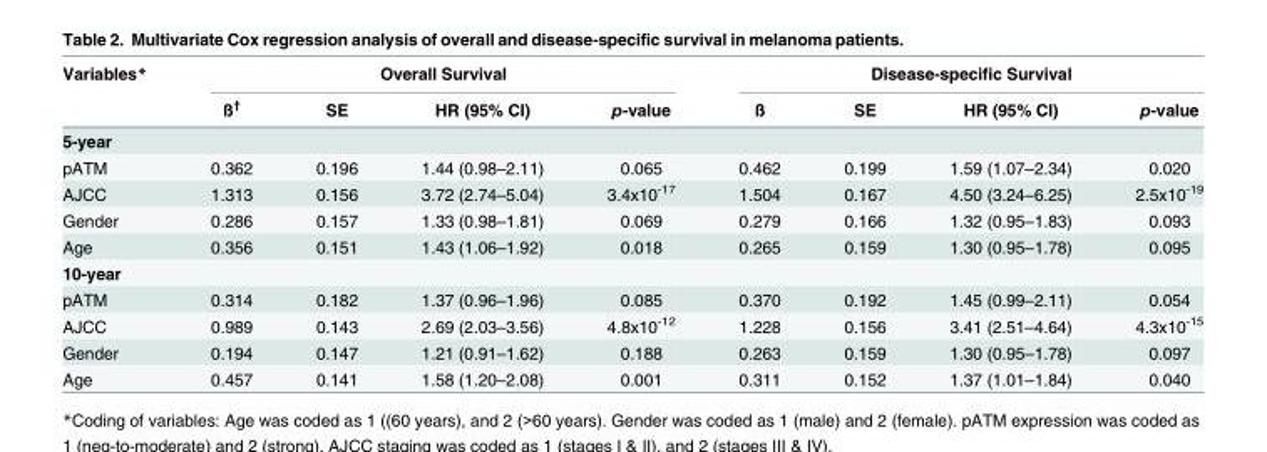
<table><thead><tr><td rowspan="2">Variables*</td><td colspan="4">Overall Survival</td><td colspan="4">Disease-specific Survival</td></tr><tr><td>ß<sup>†</sup></td><td>SE</td><td>HR (95% CI)</td><td>p-value</td><td>ß</td><td>SE</td><td>HR (95% CI)</td><td>p-value</td></tr></thead><tbody><tr><td colspan="9">5-year</td></tr><tr><td>pATM</td><td>0.362</td><td>0.196</td><td>1.44 (0.98–2.11)</td><td>0.065</td><td>0.462</td><td>0.199</td><td>1.59 (1.07–2.34)</td><td>0.020</td></tr><tr><td>AJCC</td><td>1.313</td><td>0.156</td><td>3.72 (2.74–5.04)</td><td>3.4x10<sup>-17</sup></td><td>1.504</td><td>0.167</td><td>4.50 (3.24–6.25)</td><td>2.5x10<sup>-19</sup></td></tr><tr><td>Gender</td><td>0.286</td><td>0.157</td><td>1.33 (0.98–1.81)</td><td>0.069</td><td>0.279</td><td>0.166</td><td>1.32 (0.95–1.83)</td><td>0.093</td></tr><tr><td>Age</td><td>0.356</td><td>0.151</td><td>1.43 (1.06–1.92)</td><td>0.018</td><td>0.265</td><td>0.159</td><td>1.30 (0.95–1.78)</td><td>0.095</td></tr><tr><td colspan="9">10-year</td></tr><tr><td>pATM</td><td>0.314</td><td>0.182</td><td>1.37 (0.96–1.96)</td><td>0.085</td><td>0.370</td><td>0.192</td><td>1.45 (0.99–2.11)</td><td>0.054</td></tr><tr><td>AJCC</td><td>0.989</td><td>0.143</td><td>2.69 (2.03–3.56)</td><td>4.8x10<sup>-12</sup></td><td>1.228</td><td>0.156</td><td>3.41 (2.51–4.64)</td><td>4.3x10<sup>-15</sup></td></tr><tr><td>Gender</td><td>0.194</td><td>0.147</td><td>1.21 (0.91–1.62)</td><td>0.188</td><td>0.263</td><td>0.159</td><td>1.30 (0.95–1.78)</td><td>0.097</td></tr><tr><td>Age</td><td>0.457</td><td>0.141</td><td>1.58 (1.20–2.08)</td><td>0.001</td><td>0.311</td><td>0.152</td><td>1.37 (1.01–1.84)</td><td>0.040</td></tr></tbody></table>